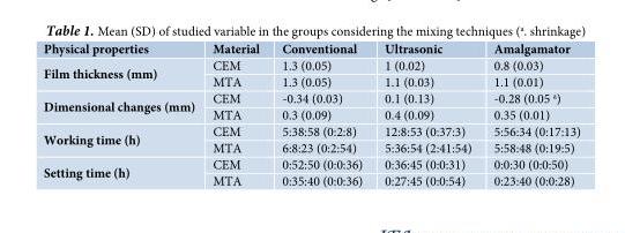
<table><thead><tr><td>Physical properties</td><td>Material</td><td>Conventional</td><td>Ultrasonic</td><td>Amalgamator</td></tr></thead><tbody><tr><td rowspan="2">Film thickness (mm)</td><td>CEM</td><td>1.3 (0.05)</td><td>1 (0.02)</td><td>0.8 (0.03)</td></tr><tr><td>MTA</td><td>1.3 (0.05)</td><td>1.1 (0.03)</td><td>1.1 (0.01)</td></tr><tr><td rowspan="2">Dimensional changes (mm)</td><td>CEM</td><td>-0.34 (0.03)</td><td>0.1 (0.13)</td><td>-0.28 (0.05 <sup>a</sup>)</td></tr><tr><td>MTA</td><td>0.3 (0.09)</td><td>0.4 (0.09)</td><td>0.35 (0.01)</td></tr><tr><td rowspan="2">Working time (h)</td><td>CEM</td><td>5:38:58 (0:2:8)</td><td>12:8:53 (0:37:3)</td><td>5:56:34 (0:17:13)</td></tr><tr><td>MTA</td><td>6:8:23 (0:2:54)</td><td>5:36:54 (2:41:54)</td><td>5:58:48 (0:19:5)</td></tr><tr><td rowspan="2">Setting time (h)</td><td>CEM</td><td>0:52:50 (0:0:36)</td><td>0:36:45 (0:0:31)</td><td>0:0:30 (0:0:50)</td></tr><tr><td>MTA</td><td>0:35:40 (0:0:36)</td><td>0:27:45 (0:0:54)</td><td>0:23:40 (0:0:28)</td></tr></tbody></table>